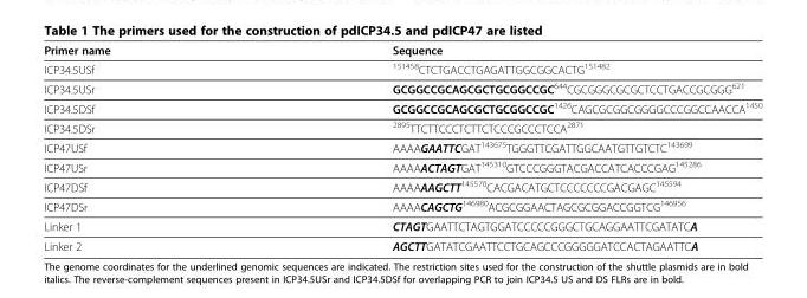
<table><thead><tr><td>Primer name</td><td>Sequence</td></tr></thead><tbody><tr><td>ICP34.5USf</td><td><sup>151458</sup>CTCTGACCTGAGATTGGCGGCACTG<sup>151482</sup></td></tr><tr><td>ICP34.5USr</td><td>GCGGCCGCAGCGCTGCGGCCGC<sup>644</sup>CGCGGGCGCGCTCCTGACCGCGGG<sup>621</sup></td></tr><tr><td>ICP34.5DSf</td><td>GCGGCCGCAGCGCTGCGGCCGC<sup>1426</sup>CAGCGCGGCGGGGCCCGGCCAACCA<sup>1450</sup></td></tr><tr><td>ICP34.5DSr</td><td><sup>2895</sup>TTCTTCCCTCTTCTCCCGCCCTCCA<sup>2871</sup></td></tr><tr><td>ICP47USf</td><td>AAAAGAATTCGAT<sup>143675</sup>TGGGTTCGATTGGCAATGTTGTCTC<sup>143699</sup></td></tr><tr><td>ICP47USr</td><td>AAAAACTAGTGAT<sup>145310</sup>GTCCCGGGTACGACCATCACCCGAG<sup>145286</sup></td></tr><tr><td>ICP47DSf</td><td>AAAAAAGCTT<sup>145570</sup>CACGACATGCTCCCCCCCGACGAGC<sup>145594</sup></td></tr><tr><td>ICP47DSr</td><td>AAAACAGCTG<sup>146980</sup>ACGCGGAACTAGCGCGGACCGGTCG<sup>146956</sup></td></tr><tr><td>Linker 1</td><td>CTAGTGAATTCTAGTGGATCCCCCGGGCTGCAGGAATTCGATATCA</td></tr><tr><td>Linker 2</td><td>AGCTTGATATCGAATTCCTGCAGCCCGGGGGATCCACTAGAATTCA</td></tr></tbody></table>